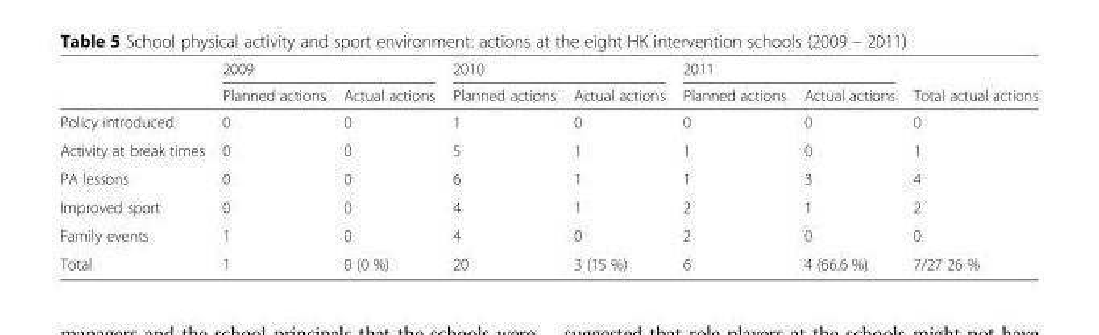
<table><thead><tr><td rowspan="2"></td><td colspan="2">2009</td><td colspan="2">2010</td><td colspan="2">2011</td><td rowspan="2">Total actual actions</td></tr><tr><td>Planned actions</td><td>Actual actions</td><td>Planned actions</td><td>Actual actions</td><td>Planned actions</td><td>Actual actions</td></tr></thead><tbody><tr><td>Policy introduced</td><td>0</td><td>0</td><td>1</td><td>0</td><td>0</td><td>0</td><td>0</td></tr><tr><td>Activity at break times</td><td>0</td><td>0</td><td>5</td><td>1</td><td>1</td><td>0</td><td>1</td></tr><tr><td>PA lessons</td><td>0</td><td>0</td><td>6</td><td>1</td><td>1</td><td>3</td><td>4</td></tr><tr><td>Improved sport</td><td>0</td><td>0</td><td>4</td><td>1</td><td>2</td><td>1</td><td>2</td></tr><tr><td>Family events</td><td>1</td><td>0</td><td>4</td><td>0</td><td>2</td><td>0</td><td>0</td></tr><tr><td>Total</td><td>1</td><td>0 (0 %)</td><td>20</td><td>3 (15 %)</td><td>6</td><td>4 (66.6 %)</td><td>7/27 26 %</td></tr></tbody></table>